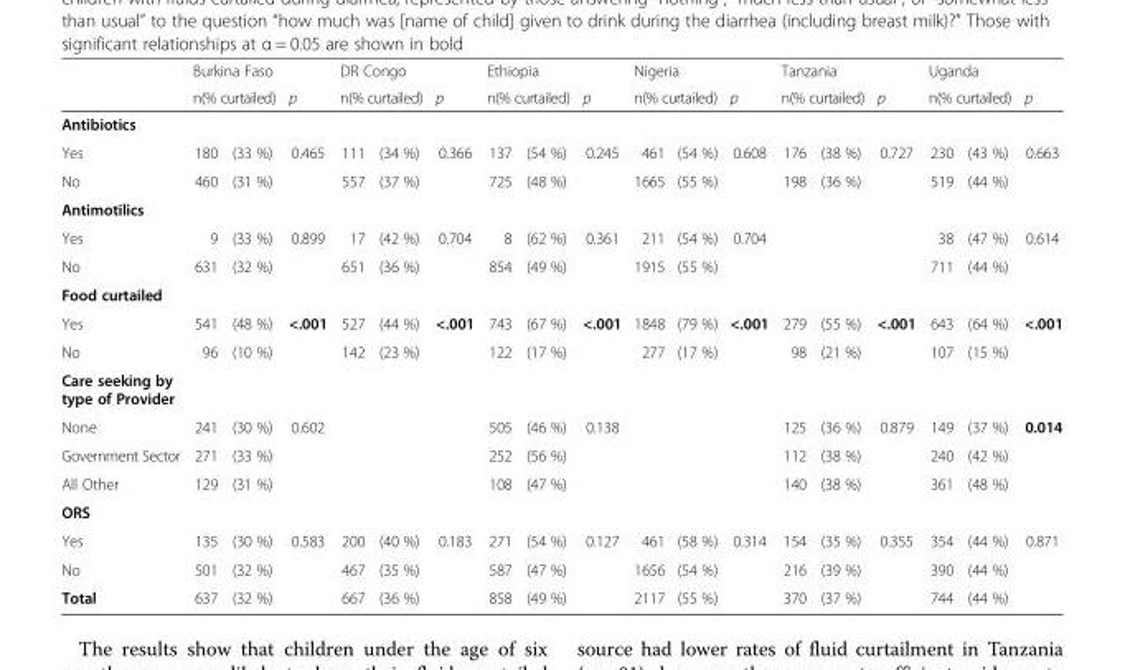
<table><thead><tr><td rowspan="3">Antibiotics</td><td colspan="3">Burkina Faso</td><td colspan="3">DR Congo</td><td colspan="3">Ethiopia</td><td colspan="3">Nigeria</td><td colspan="3">Tanzania</td><td colspan="3">Uganda</td></tr><tr><td colspan="2">n(% curtailed)</td><td rowspan="2">p</td><td colspan="2">n(% curtailed)</td><td rowspan="2">p</td><td colspan="2">n(% curtailed)</td><td rowspan="2">p</td><td colspan="2">n(% curtailed)</td><td rowspan="2">p</td><td colspan="2">n(% curtailed)</td><td rowspan="2">p</td><td colspan="2">n(% curtailed)</td><td rowspan="2">p</td></tr><tr><td></td><td></td><td></td><td></td><td></td><td></td><td></td><td></td><td></td><td></td><td></td><td></td></tr></thead><tbody><tr><td>Yes</td><td>180</td><td>(33 %)</td><td>0.465</td><td>111</td><td>(34 %)</td><td>0.366</td><td>137</td><td>(54 %)</td><td>0.245</td><td>461</td><td>(54 %)</td><td>0.608</td><td>176</td><td>(38 %)</td><td>0.727</td><td>230</td><td>(43 %)</td><td>0.663</td></tr><tr><td>No</td><td>460</td><td>(31 %)</td><td></td><td>557</td><td>(37 %)</td><td></td><td>725</td><td>(48 %)</td><td></td><td>1665</td><td>(55 %)</td><td></td><td>198</td><td>(36 %)</td><td></td><td>519</td><td>(44 %)</td><td></td></tr><tr><td colspan="19">Antimotilics</td></tr><tr><td>Yes</td><td>9</td><td>(33 %)</td><td>0.899</td><td>17</td><td>(42 %)</td><td>0.704</td><td>8</td><td>(62 %)</td><td>0.361</td><td>211</td><td>(54 %)</td><td>0.704</td><td></td><td></td><td></td><td>38</td><td>(47 %)</td><td>0.614</td></tr><tr><td>No</td><td>631</td><td>(32 %)</td><td></td><td>651</td><td>(36 %)</td><td></td><td>854</td><td>(49 %)</td><td></td><td>1915</td><td>(55 %)</td><td></td><td></td><td></td><td></td><td>711</td><td>(44 %)</td><td></td></tr><tr><td colspan="19">Food curtailed</td></tr><tr><td>Yes</td><td>541</td><td>(48 %)</td><td>&lt;.001</td><td>527</td><td>(44 %)</td><td>&lt;.001</td><td>743</td><td>(67 %)</td><td>&lt;.001</td><td>1848</td><td>(79 %)</td><td>&lt;.001</td><td>279</td><td>(55 %)</td><td>&lt;.001</td><td>643</td><td>(64 %)</td><td>&lt;.001</td></tr><tr><td>No</td><td>96</td><td>(10 %)</td><td></td><td>142</td><td>(23 %)</td><td></td><td>122</td><td>(17 %)</td><td></td><td>277</td><td>(17 %)</td><td></td><td>98</td><td>(21 %)</td><td></td><td>107</td><td>(15 %)</td><td></td></tr><tr><td colspan="19">Care seeking by type of Provider</td></tr><tr><td>None</td><td>241</td><td>(30 %)</td><td>0.602</td><td></td><td></td><td></td><td>505</td><td>(46 %)</td><td>0.138</td><td></td><td></td><td></td><td>125</td><td>(36 %)</td><td>0.879</td><td>149</td><td>(37 %)</td><td>0.014</td></tr><tr><td>Government Sector</td><td>271</td><td>(33 %)</td><td></td><td></td><td></td><td></td><td>252</td><td>(56 %)</td><td></td><td></td><td></td><td></td><td>112</td><td>(38 %)</td><td></td><td>240</td><td>(42 %)</td><td></td></tr><tr><td>All Other</td><td>129</td><td>(31 %)</td><td></td><td></td><td></td><td></td><td>108</td><td>(47 %)</td><td></td><td></td><td></td><td></td><td>140</td><td>(38 %)</td><td></td><td>361</td><td>(48 %)</td><td></td></tr><tr><td colspan="19">ORS</td></tr><tr><td>Yes</td><td>135</td><td>(30 %)</td><td>0.583</td><td>200</td><td>(40 %)</td><td>0.183</td><td>271</td><td>(54 %)</td><td>0.127</td><td>461</td><td>(58 %)</td><td>0.314</td><td>154</td><td>(35 %)</td><td>0.355</td><td>354</td><td>(44 %)</td><td>0.871</td></tr><tr><td>No</td><td>501</td><td>(32 %)</td><td></td><td>467</td><td>(35 %)</td><td></td><td>587</td><td>(47 %)</td><td></td><td>1656</td><td>(54 %)</td><td></td><td>216</td><td>(39 %)</td><td></td><td>390</td><td>(44 %)</td><td></td></tr><tr><td>Total</td><td>637</td><td>(32 %)</td><td></td><td>667</td><td>(36 %)</td><td></td><td>858</td><td>(49 %)</td><td></td><td>2117</td><td>(55 %)</td><td></td><td>370</td><td>(37 %)</td><td></td><td>744</td><td>(44 %)</td><td></td></tr></tbody></table>